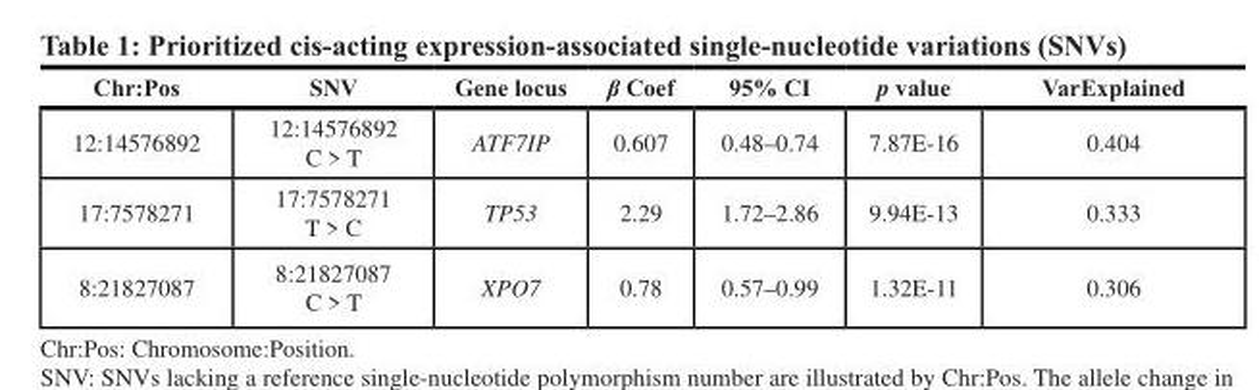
<table><thead><tr><td>Chr:Pos</td><td>SNV</td><td>Gene locus</td><td>β Coef</td><td>95% CI</td><td>p value</td><td>VarExplained</td></tr></thead><tbody><tr><td>12:14576892</td><td>12:14576892 C &gt; T</td><td>ATF7IP</td><td>0.607</td><td>0.48–0.74</td><td>7.87E-16</td><td>0.404</td></tr><tr><td>17:7578271</td><td>17:7578271 T &gt; C</td><td>TP53</td><td>2.29</td><td>1.72–2.86</td><td>9.94E-13</td><td>0.333</td></tr><tr><td>8:21827087</td><td>8:21827087 C &gt; T</td><td>XPO7</td><td>0.78</td><td>0.57–0.99</td><td>1.32E-11</td><td>0.306</td></tr></tbody></table>